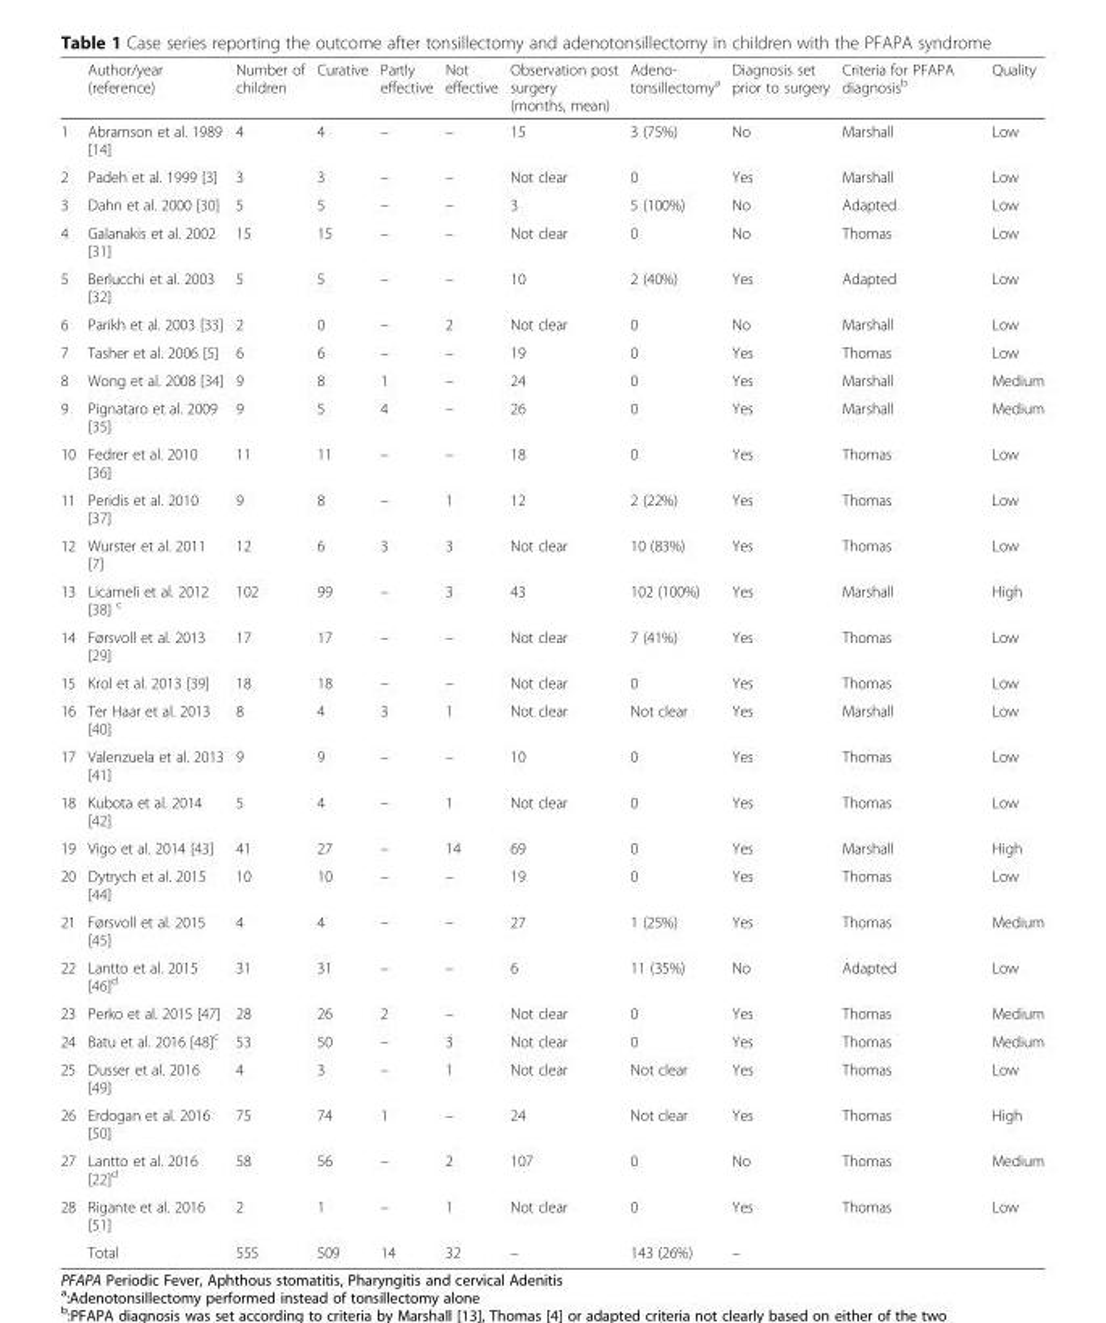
<table><thead><tr><td></td><td>Author/year (reference)</td><td>Number of children</td><td>Curative</td><td>Partly effective</td><td>Not effective</td><td>Observation post surgery (months, mean)</td><td>Adeno- tonsillectomy<sup>a</sup></td><td>Diagnosis set prior to surgery</td><td>Criteria for PFAPA diagnosis<sup>b</sup></td><td>Quality</td></tr></thead><tbody><tr><td>1</td><td>Abramson et al. 1989 [14]</td><td>4</td><td>4</td><td>–</td><td>–</td><td>15</td><td>3 (75%)</td><td>No</td><td>Marshall</td><td>Low</td></tr><tr><td>2</td><td>Padeh et al. 1999 [3]</td><td>3</td><td>3</td><td>–</td><td>–</td><td>Not clear</td><td>0</td><td>Yes</td><td>Marshall</td><td>Low</td></tr><tr><td>3</td><td>Dahn et al. 2000 [30]</td><td>5</td><td>5</td><td>–</td><td>–</td><td>3</td><td>5 (100%)</td><td>No</td><td>Adapted</td><td>Low</td></tr><tr><td>4</td><td>Galanakis et al. 2002 [31]</td><td>15</td><td>15</td><td>–</td><td>–</td><td>Not clear</td><td>0</td><td>No</td><td>Thomas</td><td>Low</td></tr><tr><td>5</td><td>Berlucchi et al. 2003 [32]</td><td>5</td><td>5</td><td>–</td><td>–</td><td>10</td><td>2 (40%)</td><td>Yes</td><td>Adapted</td><td>Low</td></tr><tr><td>6</td><td>Parikh et al. 2003 [33]</td><td>2</td><td>0</td><td>–</td><td>2</td><td>Not clear</td><td>0</td><td>No</td><td>Marshall</td><td>Low</td></tr><tr><td>7</td><td>Tasher et al. 2006 [5]</td><td>6</td><td>6</td><td>–</td><td>–</td><td>19</td><td>0</td><td>Yes</td><td>Thomas</td><td>Low</td></tr><tr><td>8</td><td>Wong et al. 2008 [34]</td><td>9</td><td>8</td><td>1</td><td>–</td><td>24</td><td>0</td><td>Yes</td><td>Marshall</td><td>Medium</td></tr><tr><td>9</td><td>Pignataro et al. 2009 [35]</td><td>9</td><td>5</td><td>4</td><td>–</td><td>26</td><td>0</td><td>Yes</td><td>Marshall</td><td>Medium</td></tr><tr><td>10</td><td>Fedrer et al. 2010 [36]</td><td>11</td><td>11</td><td>–</td><td>–</td><td>18</td><td>0</td><td>Yes</td><td>Thomas</td><td>Low</td></tr><tr><td>11</td><td>Peridis et al. 2010 [37]</td><td>9</td><td>8</td><td>–</td><td>1</td><td>12</td><td>2 (22%)</td><td>Yes</td><td>Thomas</td><td>Low</td></tr><tr><td>12</td><td>Wurster et al. 2011 [7]</td><td>12</td><td>6</td><td>3</td><td>3</td><td>Not clear</td><td>10 (83%)</td><td>Yes</td><td>Thomas</td><td>Low</td></tr><tr><td>13</td><td>Licameli et al. 2012 [38] <sup>c</sup></td><td>102</td><td>99</td><td>–</td><td>3</td><td>43</td><td>102 (100%)</td><td>Yes</td><td>Marshall</td><td>High</td></tr><tr><td>14</td><td>Førsvoll et al. 2013 [29]</td><td>17</td><td>17</td><td>–</td><td>–</td><td>Not clear</td><td>7 (41%)</td><td>Yes</td><td>Thomas</td><td>Low</td></tr><tr><td>15</td><td>Krol et al. 2013 [39]</td><td>18</td><td>18</td><td>–</td><td>–</td><td>Not clear</td><td>0</td><td>Yes</td><td>Thomas</td><td>Low</td></tr><tr><td>16</td><td>Ter Haar et al. 2013 [40]</td><td>8</td><td>4</td><td>3</td><td>1</td><td>Not clear</td><td>Not clear</td><td>Yes</td><td>Marshall</td><td>Low</td></tr><tr><td>17</td><td>Valenzuela et al. 2013 [41]</td><td>9</td><td>9</td><td>–</td><td>–</td><td>10</td><td>0</td><td>Yes</td><td>Thomas</td><td>Low</td></tr><tr><td>18</td><td>Kubota et al. 2014 [42]</td><td>5</td><td>4</td><td>–</td><td>1</td><td>Not clear</td><td>0</td><td>Yes</td><td>Thomas</td><td>Low</td></tr><tr><td>19</td><td>Vigo et al. 2014 [43]</td><td>41</td><td>27</td><td>–</td><td>14</td><td>69</td><td>0</td><td>Yes</td><td>Marshall</td><td>High</td></tr><tr><td>20</td><td>Dytrych et al. 2015 [44]</td><td>10</td><td>10</td><td>–</td><td>–</td><td>19</td><td>0</td><td>Yes</td><td>Thomas</td><td>Low</td></tr><tr><td>21</td><td>Førsvoll et al. 2015 [45]</td><td>4</td><td>4</td><td>–</td><td>–</td><td>27</td><td>1 (25%)</td><td>Yes</td><td>Thomas</td><td>Medium</td></tr><tr><td>22</td><td>Lantto et al. 2015 [46]<sup>d</sup></td><td>31</td><td>31</td><td>–</td><td>–</td><td>6</td><td>11 (35%)</td><td>No</td><td>Adapted</td><td>Low</td></tr><tr><td>23</td><td>Perko et al. 2015 [47]</td><td>28</td><td>26</td><td>2</td><td>–</td><td>Not clear</td><td>0</td><td>Yes</td><td>Thomas</td><td>Medium</td></tr><tr><td>24</td><td>Batu et al. 2016 [48]<sup>c</sup></td><td>53</td><td>50</td><td>–</td><td>3</td><td>Not clear</td><td>0</td><td>Yes</td><td>Thomas</td><td>Medium</td></tr><tr><td>25</td><td>Dusser et al. 2016 [49]</td><td>4</td><td>3</td><td>–</td><td>1</td><td>Not clear</td><td>Not clear</td><td>Yes</td><td>Thomas</td><td>Low</td></tr><tr><td>26</td><td>Erdogan et al. 2016 [50]</td><td>75</td><td>74</td><td>1</td><td>–</td><td>24</td><td>Not clear</td><td>Yes</td><td>Thomas</td><td>High</td></tr><tr><td>27</td><td>Lantto et al. 2016 [22]<sup>d</sup></td><td>58</td><td>56</td><td>–</td><td>2</td><td>107</td><td>0</td><td>No</td><td>Thomas</td><td>Medium</td></tr><tr><td rowspan="2">28</td><td>Rigante et al. 2016 [51]</td><td>2</td><td>1</td><td>–</td><td>1</td><td>Not clear</td><td>0</td><td>Yes</td><td>Thomas</td><td>Low</td></tr><tr><td>Total</td><td>555</td><td>509</td><td>14</td><td>32</td><td>–</td><td>143 (26%)</td><td>–</td><td></td><td></td></tr></tbody></table>